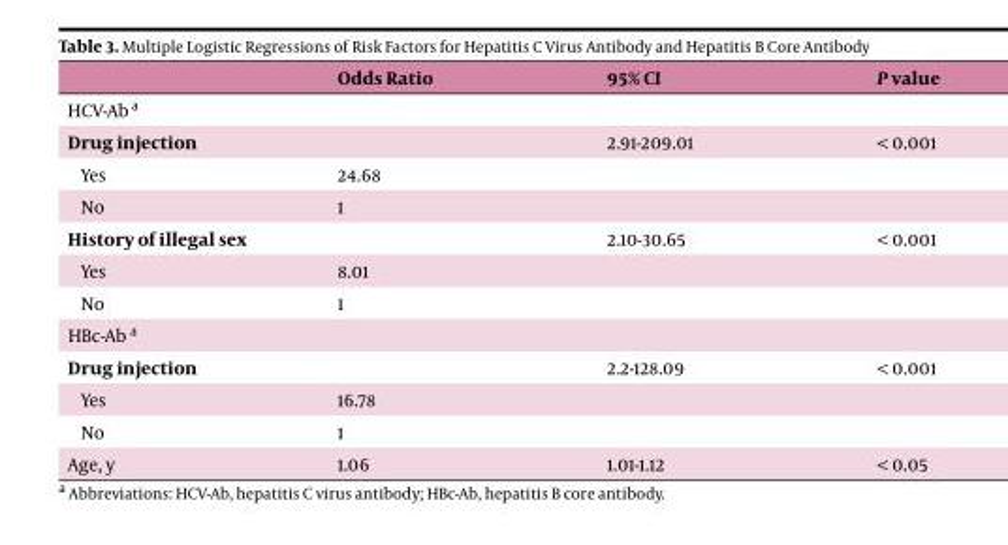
<table><thead><tr><td></td><td>Odds Ratio</td><td>95% CI</td><td>P value</td></tr></thead><tbody><tr><td colspan="4">HCV-Ab a</td></tr><tr><td>Drug injection</td><td></td><td>2.91-209.01</td><td>&lt; 0.001</td></tr><tr><td>Yes</td><td>24.68</td><td></td><td></td></tr><tr><td>No</td><td>1</td><td></td><td></td></tr><tr><td>History of illegal sex</td><td></td><td>2.10-30.65</td><td>&lt; 0.001</td></tr><tr><td>Yes</td><td>8.01</td><td></td><td></td></tr><tr><td>No</td><td>1</td><td></td><td></td></tr><tr><td colspan="4">HBc-Ab a</td></tr><tr><td>Drug injection</td><td></td><td>2.2-128.09</td><td>&lt; 0.001</td></tr><tr><td>Yes</td><td>16.78</td><td></td><td></td></tr><tr><td>No</td><td>1</td><td></td><td></td></tr><tr><td>Age, y</td><td>1.06</td><td>1.01-1.12</td><td>&lt; 0.05</td></tr></tbody></table>